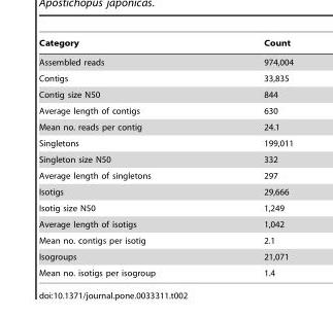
<table><thead><tr><td>Category</td><td>Count</td></tr></thead><tbody><tr><td>Assembled reads</td><td>974,004</td></tr><tr><td>Contigs</td><td>33,835</td></tr><tr><td>Contig size N50</td><td>844</td></tr><tr><td>Average length of contigs</td><td>630</td></tr><tr><td>Mean no. reads per contig</td><td>24.1</td></tr><tr><td>Singletons</td><td>199,011</td></tr><tr><td>Singleton size N50</td><td>332</td></tr><tr><td>Average length of singletons</td><td>297</td></tr><tr><td>Isotigs</td><td>29,666</td></tr><tr><td>Isotig size N50</td><td>1,249</td></tr><tr><td>Average length of isotigs</td><td>1,042</td></tr><tr><td>Mean no. contigs per isotig</td><td>2.1</td></tr><tr><td>Isogroups</td><td>21,071</td></tr><tr><td>Mean no. isotigs per isogroup</td><td>1.4</td></tr></tbody></table>